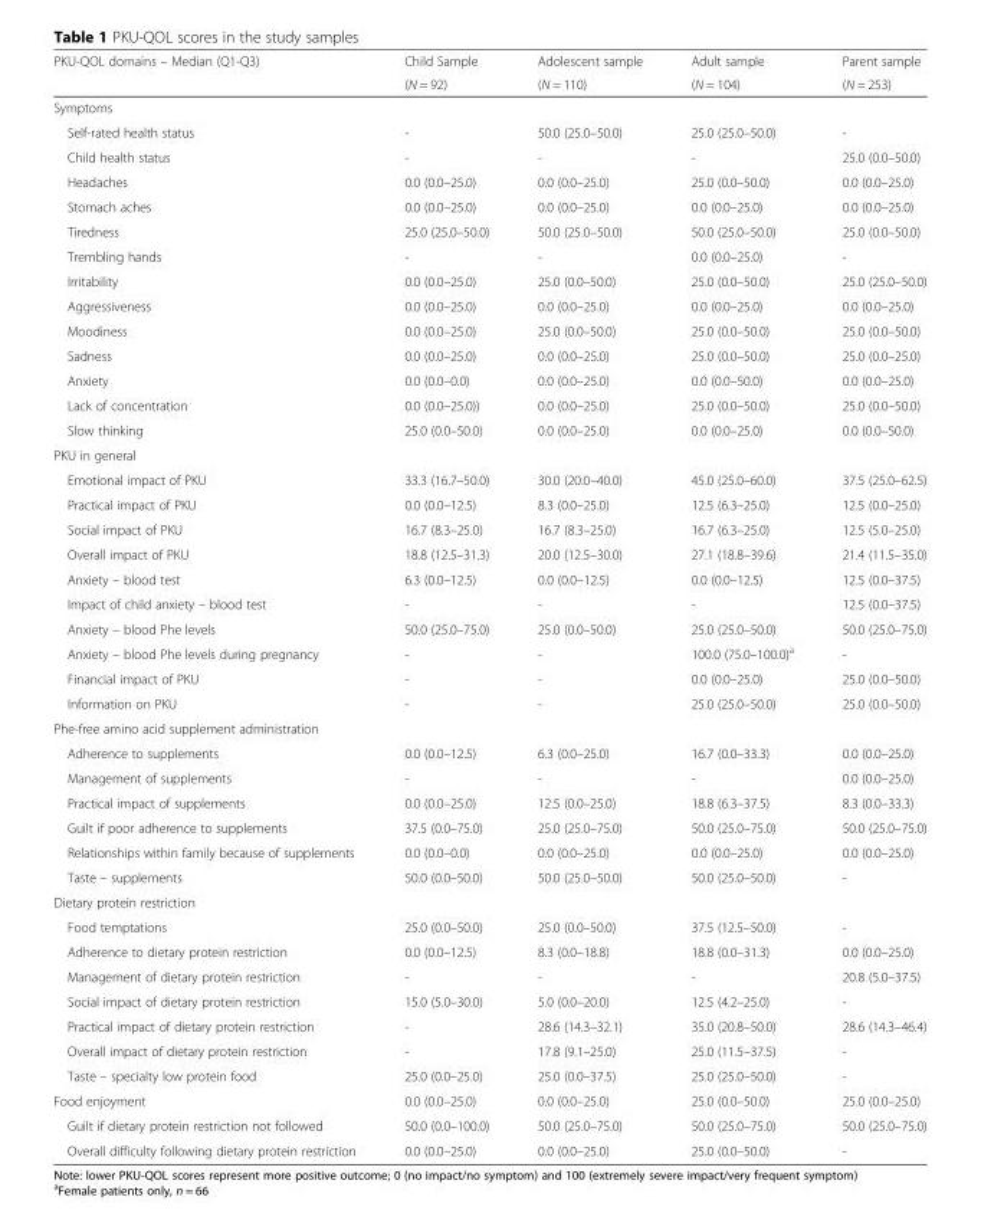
<table><thead><tr><td rowspan="2">PKU-QOL domains – Median (Q1-Q3)</td><td rowspan="2">Child Sample (N = 92)</td><td rowspan="2">Adolescent sample (N = 110)</td><td rowspan="2">Adult sample (N = 104)</td><td rowspan="2">Parent sample (N = 253)</td></tr><tr></tr></thead><tbody><tr><td colspan="5">Symptoms</td></tr><tr><td>Self-rated health status</td><td>-</td><td>50.0 (25.0–50.0)</td><td>25.0 (25.0–50.0)</td><td>-</td></tr><tr><td>Child health status</td><td>-</td><td>-</td><td>-</td><td>25.0 (0.0–50.0)</td></tr><tr><td>Headaches</td><td>0.0 (0.0–25.0)</td><td>0.0 (0.0–25.0)</td><td>25.0 (0.0–50.0)</td><td>0.0 (0.0–25.0)</td></tr><tr><td>Stomach aches</td><td>0.0 (0.0–25.0)</td><td>0.0 (0.0–25.0)</td><td>0.0 (0.0–25.0)</td><td>0.0 (0.0–25.0)</td></tr><tr><td>Tiredness</td><td>25.0 (25.0–50.0)</td><td>50.0 (25.0–50.0)</td><td>50.0 (25.0–50.0)</td><td>25.0 (0.0–50.0)</td></tr><tr><td>Trembling hands</td><td>-</td><td>-</td><td>0.0 (0.0–25.0)</td><td>-</td></tr><tr><td>Irritability</td><td>0.0 (0.0–25.0)</td><td>25.0 (0.0–50.0)</td><td>25.0 (0.0–50.0)</td><td>25.0 (25.0–50.0)</td></tr><tr><td>Aggressiveness</td><td>0.0 (0.0–25.0)</td><td>0.0 (0.0–25.0)</td><td>0.0 (0.0–25.0)</td><td>0.0 (0.0–25.0)</td></tr><tr><td>Moodiness</td><td>0.0 (0.0–25.0)</td><td>25.0 (0.0–50.0)</td><td>25.0 (0.0–50.0)</td><td>25.0 (0.0–50.0)</td></tr><tr><td>Sadness</td><td>0.0 (0.0–25.0)</td><td>0.0 (0.0–25.0)</td><td>25.0 (0.0–50.0)</td><td>25.0 (0.0–25.0)</td></tr><tr><td>Anxiety</td><td>0.0 (0.0–0.0)</td><td>0.0 (0.0–25.0)</td><td>0.0 (0.0–50.0)</td><td>0.0 (0.0–25.0)</td></tr><tr><td>Lack of concentration</td><td>0.0 (0.0–25.0))</td><td>0.0 (0.0–25.0)</td><td>25.0 (0.0–50.0)</td><td>25.0 (0.0–50.0)</td></tr><tr><td>Slow thinking</td><td>25.0 (0.0–50.0)</td><td>0.0 (0.0–25.0)</td><td>0.0 (0.0–25.0)</td><td>0.0 (0.0–50.0)</td></tr><tr><td colspan="5">PKU in general</td></tr><tr><td>Emotional impact of PKU</td><td>33.3 (16.7–50.0)</td><td>30.0 (20.0–40.0)</td><td>45.0 (25.0–60.0)</td><td>37.5 (25.0–62.5)</td></tr><tr><td>Practical impact of PKU</td><td>0.0 (0.0–12.5)</td><td>8.3 (0.0–25.0)</td><td>12.5 (6.3–25.0)</td><td>12.5 (0.0–25.0)</td></tr><tr><td>Social impact of PKU</td><td>16.7 (8.3–25.0)</td><td>16.7 (8.3–25.0)</td><td>16.7 (6.3–25.0)</td><td>12.5 (5.0–25.0)</td></tr><tr><td>Overall impact of PKU</td><td>18.8 (12.5–31.3)</td><td>20.0 (12.5–30.0)</td><td>27.1 (18.8–39.6)</td><td>21.4 (11.5–35.0)</td></tr><tr><td>Anxiety – blood test</td><td>6.3 (0.0–12.5)</td><td>0.0 (0.0–12.5)</td><td>0.0 (0.0–12.5)</td><td>12.5 (0.0–37.5)</td></tr><tr><td>Impact of child anxiety – blood test</td><td>-</td><td>-</td><td>-</td><td>12.5 (0.0–37.5)</td></tr><tr><td>Anxiety – blood Phe levels</td><td>50.0 (25.0–75.0)</td><td>25.0 (0.0–50.0)</td><td>25.0 (25.0–50.0)</td><td>50.0 (25.0–75.0)</td></tr><tr><td>Anxiety – blood Phe levels during pregnancy</td><td>-</td><td>-</td><td>100.0 (75.0–100.0)<sup>a</sup></td><td>-</td></tr><tr><td>Financial impact of PKU</td><td>-</td><td>-</td><td>0.0 (0.0–25.0)</td><td>25.0 (0.0–50.0)</td></tr><tr><td>Information on PKU</td><td>-</td><td>-</td><td>25.0 (25.0–50.0)</td><td>25.0 (0.0–50.0)</td></tr><tr><td colspan="5">Phe-free amino acid supplement administration</td></tr><tr><td>Adherence to supplements</td><td>0.0 (0.0–12.5)</td><td>6.3 (0.0–25.0)</td><td>16.7 (0.0–33.3)</td><td>0.0 (0.0–25.0)</td></tr><tr><td>Management of supplements</td><td>-</td><td>-</td><td>-</td><td>0.0 (0.0–25.0)</td></tr><tr><td>Practical impact of supplements</td><td>0.0 (0.0–25.0)</td><td>12.5 (0.0–25.0)</td><td>18.8 (6.3–37.5)</td><td>8.3 (0.0–33.3)</td></tr><tr><td>Guilt if poor adherence to supplements</td><td>37.5 (0.0–75.0)</td><td>25.0 (25.0–75.0)</td><td>50.0 (25.0–75.0)</td><td>50.0 (25.0–75.0)</td></tr><tr><td>Relationships within family because of supplements</td><td>0.0 (0.0–0.0)</td><td>0.0 (0.0–25.0)</td><td>0.0 (0.0–25.0)</td><td>0.0 (0.0–25.0)</td></tr><tr><td>Taste – supplements</td><td>50.0 (0.0–50.0)</td><td>50.0 (25.0–50.0)</td><td>50.0 (25.0–50.0)</td><td>-</td></tr><tr><td colspan="5">Dietary protein restriction</td></tr><tr><td>Food temptations</td><td>25.0 (0.0–50.0)</td><td>25.0 (0.0–50.0)</td><td>37.5 (12.5–50.0)</td><td>-</td></tr><tr><td>Adherence to dietary protein restriction</td><td>0.0 (0.0–12.5)</td><td>8.3 (0.0–18.8)</td><td>18.8 (0.0–31.3)</td><td>0.0 (0.0–25.0)</td></tr><tr><td>Management of dietary protein restriction</td><td>-</td><td>-</td><td>-</td><td>20.8 (5.0–37.5)</td></tr><tr><td>Social impact of dietary protein restriction</td><td>15.0 (5.0–30.0)</td><td>5.0 (0.0–20.0)</td><td>12.5 (4.2–25.0)</td><td>-</td></tr><tr><td>Practical impact of dietary protein restriction</td><td>-</td><td>28.6 (14.3–32.1)</td><td>35.0 (20.8–50.0)</td><td>28.6 (14.3–46.4)</td></tr><tr><td>Overall impact of dietary protein restriction</td><td>-</td><td>17.8 (9.1–25.0)</td><td>25.0 (11.5–37.5)</td><td>-</td></tr><tr><td>Taste – specialty low protein food</td><td>25.0 (0.0–25.0)</td><td>25.0 (0.0–37.5)</td><td>25.0 (25.0–50.0)</td><td>-</td></tr><tr><td>Food enjoyment</td><td>0.0 (0.0–25.0)</td><td>0.0 (0.0–25.0)</td><td>25.0 (0.0–50.0)</td><td>25.0 (0.0–25.0)</td></tr><tr><td>Guilt if dietary protein restriction not followed</td><td>50.0 (0.0–100.0)</td><td>50.0 (25.0–75.0)</td><td>50.0 (25.0–75.0)</td><td>50.0 (25.0–75.0)</td></tr><tr><td>Overall difficulty following dietary protein restriction</td><td>0.0 (0.0–25.0)</td><td>0.0 (0.0–25.0)</td><td>25.0 (0.0–50.0)</td><td>-</td></tr></tbody></table>